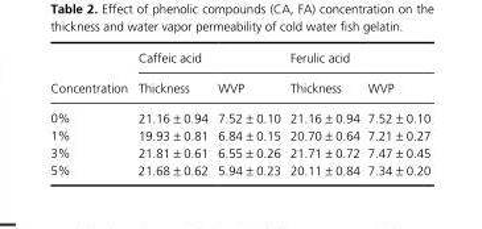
<table><thead><tr><td rowspan="2">Concentration</td><td colspan="2">Caffeic acid</td><td colspan="2">Ferulic acid</td></tr><tr><td>Thickness</td><td>WVP</td><td>Thickness</td><td>WVP</td></tr></thead><tbody><tr><td>0%</td><td>21.16 ± 0.94</td><td>7.52 ± 0.10</td><td>21.16 ± 0.94</td><td>7.52 ± 0.10</td></tr><tr><td>1%</td><td>19.93 ± 0.81</td><td>6.84 ± 0.15</td><td>20.70 ± 0.64</td><td>7.21 ± 0.27</td></tr><tr><td>3%</td><td>21.81 ± 0.61</td><td>6.55 ± 0.26</td><td>21.71 ± 0.72</td><td>7.47 ± 0.45</td></tr><tr><td>5%</td><td>21.68 ± 0.62</td><td>5.94 ± 0.23</td><td>20.11 ± 0.84</td><td>7.34 ± 0.20</td></tr></tbody></table>